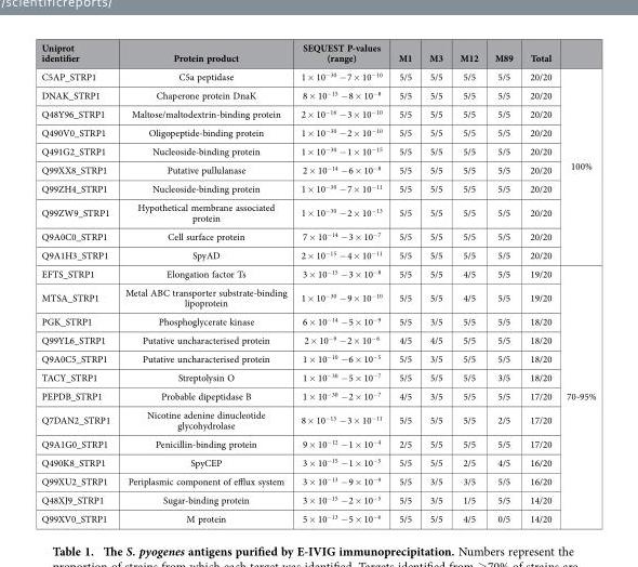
<table><thead><tr><td>Uniprot identifier</td><td>Protein product</td><td>SEQUEST P-values (range)</td><td>M1</td><td>M3</td><td>M12</td><td>M89</td><td>Total</td><td></td></tr></thead><tbody><tr><td>C5AP_STRP1</td><td>C5a peptidase</td><td>1 × 10<sup>−30</sup> − 7 × 10<sup>−10</sup></td><td>5/5</td><td>5/5</td><td>5/5</td><td>5/5</td><td>20/20</td><td rowspan="10">100%</td></tr><tr><td>DNAK_STRP1</td><td>Chaperone protein DnaK</td><td>8 × 10<sup>−15</sup> − 8 × 10<sup>−8</sup></td><td>5/5</td><td>5/5</td><td>5/5</td><td>5/5</td><td>20/20</td></tr><tr><td>Q48Y96_STRP1</td><td>Maltose/maltodextrin-binding protein</td><td>2 × 10<sup>−16</sup> − 3 × 10<sup>−10</sup></td><td>5/5</td><td>5/5</td><td>5/5</td><td>5/5</td><td>20/20</td></tr><tr><td>Q490V0_STRP1</td><td>Oligopeptide-binding protein</td><td>1 × 10<sup>−30</sup> − 2 × 10<sup>−10</sup></td><td>5/5</td><td>5/5</td><td>5/5</td><td>5/5</td><td>20/20</td></tr><tr><td>Q491G2_STRP1</td><td>Nucleoside-binding protein</td><td>1 × 10<sup>−30</sup> − 1 × 10<sup>−15</sup></td><td>5/5</td><td>5/5</td><td>5/5</td><td>5/5</td><td>20/20</td></tr><tr><td>Q99XX8_STRP1</td><td>Putative pullulanase</td><td>2 × 10<sup>−14</sup> − 6 × 10<sup>−8</sup></td><td>5/5</td><td>5/5</td><td>5/5</td><td>5/5</td><td>20/20</td></tr><tr><td>Q99ZH4_STRP1</td><td>Nucleoside-binding protein</td><td>1 × 10<sup>−30</sup> − 7 × 10<sup>−11</sup></td><td>5/5</td><td>5/5</td><td>5/5</td><td>5/5</td><td>20/20</td></tr><tr><td>Q99ZW9_STRP1</td><td>Hypothetical membrane associated protein</td><td>1 × 10<sup>−30</sup> − 2 × 10<sup>−13</sup></td><td>5/5</td><td>5/5</td><td>5/5</td><td>5/5</td><td>20/20</td></tr><tr><td>Q9A0C0_STRP1</td><td>Cell surface protein</td><td>7 × 10<sup>−14</sup> − 3 × 10<sup>−7</sup></td><td>5/5</td><td>5/5</td><td>5/5</td><td>5/5</td><td>20/20</td></tr><tr><td>Q9A1H3_STRP1</td><td>SpyAD</td><td>2 × 10<sup>−15</sup> − 4 × 10<sup>−11</sup></td><td>5/5</td><td>5/5</td><td>5/5</td><td>5/5</td><td>20/20</td></tr><tr><td>EFTS_STRP1</td><td>Elongation factor Ts</td><td>3 × 10<sup>−15</sup> − 3 × 10<sup>−8</sup></td><td>5/5</td><td>5/5</td><td>4/5</td><td>5/5</td><td>19/20</td><td rowspan="13">70-95%</td></tr><tr><td>MTSA_STRP1</td><td>Metal ABC transporter substrate-binding lipoprotein</td><td>1 × 10<sup>−30</sup> − 9 × 10<sup>−10</sup></td><td>5/5</td><td>5/5</td><td>4/5</td><td>5/5</td><td>19/20</td></tr><tr><td>PGK_STRP1</td><td>Phosphoglycerate kinase</td><td>6 × 10<sup>−14</sup> − 5 × 10<sup>−9</sup></td><td>5/5</td><td>3/5</td><td>5/5</td><td>5/5</td><td>18/20</td></tr><tr><td>Q99YL6_STRP1</td><td>Putative uncharacterised protein</td><td>2 × 10<sup>−9</sup> − 2 × 10<sup>−6</sup></td><td>4/5</td><td>4/5</td><td>5/5</td><td>5/5</td><td>18/20</td></tr><tr><td>Q9A0C5_STRP1</td><td>Putative uncharacterised protein</td><td>1 × 10<sup>−10</sup> − 6 × 10<sup>−5</sup></td><td>5/5</td><td>3/5</td><td>5/5</td><td>5/5</td><td>18/20</td></tr><tr><td>TACY_STRP1</td><td>Streptolysin O</td><td>1 × 10<sup>−30</sup> − 5 × 10<sup>−7</sup></td><td>5/5</td><td>5/5</td><td>5/5</td><td>3/5</td><td>18/20</td></tr><tr><td>PEPDB_STRP1</td><td>Probable dipeptidase B</td><td>1 × 10<sup>−30</sup> − 2 × 10<sup>−7</sup></td><td>4/5</td><td>3/5</td><td>5/5</td><td>5/5</td><td>17/20</td></tr><tr><td>Q7DAN2_STRP1</td><td>Nicotine adenine dinucleotide glycohydrolase</td><td>8 × 10<sup>−15</sup> − 3 × 10<sup>−11</sup></td><td>5/5</td><td>5/5</td><td>5/5</td><td>2/5</td><td>17/20</td></tr><tr><td>Q9A1G0_STRP1</td><td>Penicillin-binding protein</td><td>9 × 10<sup>−12</sup> − 1 × 10<sup>−4</sup></td><td>2/5</td><td>5/5</td><td>5/5</td><td>5/5</td><td>17/20</td></tr><tr><td>Q490K8_STRP1</td><td>SpyCEP</td><td>3 × 10<sup>−15</sup> − 1 × 10<sup>−5</sup></td><td>5/5</td><td>5/5</td><td>2/5</td><td>4/5</td><td>16/20</td></tr><tr><td>Q99XU2_STRP1</td><td>Periplasmic component of efflux system</td><td>3 × 10<sup>−13</sup> − 9 × 10<sup>−9</sup></td><td>5/5</td><td>3/5</td><td>3/5</td><td>5/5</td><td>16/20</td></tr><tr><td>Q48XJ9_STRP1</td><td>Sugar-binding protein</td><td>3 × 10<sup>−15</sup> − 2 × 10<sup>−5</sup></td><td>5/5</td><td>3/5</td><td>1/5</td><td>5/5</td><td>14/20</td></tr><tr><td>Q99XV0_STRP1</td><td>M protein</td><td>5 × 10<sup>−13</sup> − 5 × 10<sup>−6</sup></td><td>5/5</td><td>5/5</td><td>4/5</td><td>0/5</td><td>14/20</td></tr></tbody></table>